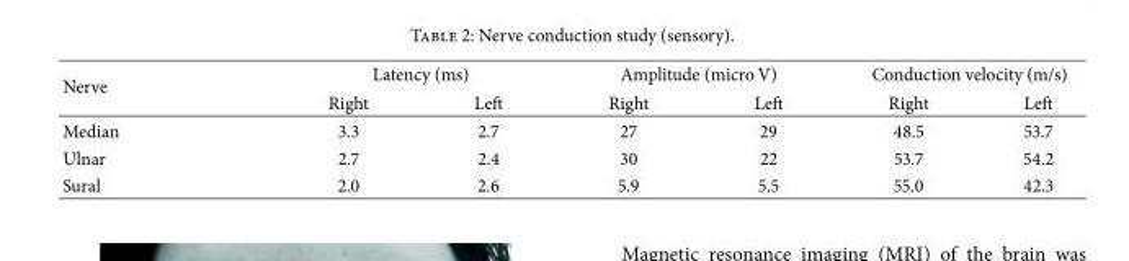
<table><thead><tr><td rowspan="2">Nerve</td><td colspan="2">Latency (ms)</td><td colspan="2">Amplitude (micro V)</td><td colspan="2">Conduction velocity (m/s)</td></tr><tr><td>Right</td><td>Left</td><td>Right</td><td>Left</td><td>Right</td><td>Left</td></tr></thead><tbody><tr><td>Median</td><td>3.3</td><td>2.7</td><td>27</td><td>29</td><td>48.5</td><td>53.7</td></tr><tr><td>Ulnar</td><td>2.7</td><td>2.4</td><td>30</td><td>22</td><td>53.7</td><td>54.2</td></tr><tr><td>Sural</td><td>2.0</td><td>2.6</td><td>5.9</td><td>5.5</td><td>55.0</td><td>42.3</td></tr></tbody></table>